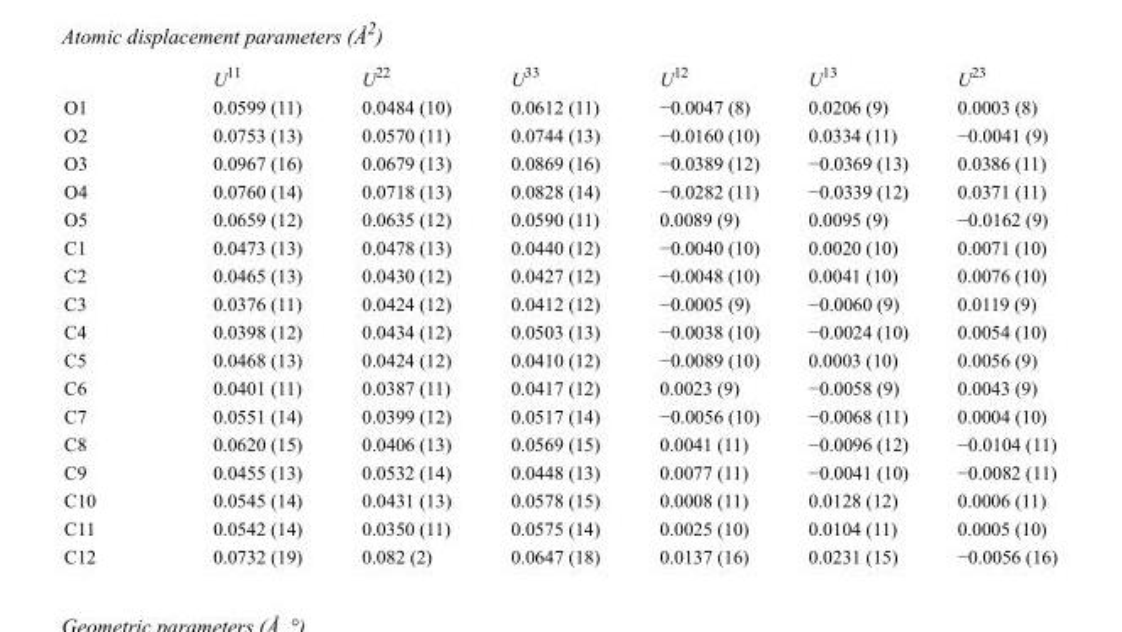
<table><thead><tr><td></td><td>U<sup>11</sup></td><td>U<sup>22</sup></td><td>U<sup>33</sup></td><td>U<sup>12</sup></td><td>U<sup>13</sup></td><td>U<sup>23</sup></td></tr></thead><tbody><tr><td>O1</td><td>0.0599 (11)</td><td>0.0484 (10)</td><td>0.0612 (11)</td><td>−0.0047 (8)</td><td>0.0206 (9)</td><td>0.0003 (8)</td></tr><tr><td>O2</td><td>0.0753 (13)</td><td>0.0570 (11)</td><td>0.0744 (13)</td><td>−0.0160 (10)</td><td>0.0334 (11)</td><td>−0.0041 (9)</td></tr><tr><td>O3</td><td>0.0967 (16)</td><td>0.0679 (13)</td><td>0.0869 (16)</td><td>−0.0389 (12)</td><td>−0.0369 (13)</td><td>0.0386 (11)</td></tr><tr><td>O4</td><td>0.0760 (14)</td><td>0.0718 (13)</td><td>0.0828 (14)</td><td>−0.0282 (11)</td><td>−0.0339 (12)</td><td>0.0371 (11)</td></tr><tr><td>O5</td><td>0.0659 (12)</td><td>0.0635 (12)</td><td>0.0590 (11)</td><td>0.0089 (9)</td><td>0.0095 (9)</td><td>−0.0162 (9)</td></tr><tr><td>C1</td><td>0.0473 (13)</td><td>0.0478 (13)</td><td>0.0440 (12)</td><td>−0.0040 (10)</td><td>0.0020 (10)</td><td>0.0071 (10)</td></tr><tr><td>C2</td><td>0.0465 (13)</td><td>0.0430 (12)</td><td>0.0427 (12)</td><td>−0.0048 (10)</td><td>0.0041 (10)</td><td>0.0076 (10)</td></tr><tr><td>C3</td><td>0.0376 (11)</td><td>0.0424 (12)</td><td>0.0412 (12)</td><td>−0.0005 (9)</td><td>−0.0060 (9)</td><td>0.0119 (9)</td></tr><tr><td>C4</td><td>0.0398 (12)</td><td>0.0434 (12)</td><td>0.0503 (13)</td><td>−0.0038 (10)</td><td>−0.0024 (10)</td><td>0.0054 (10)</td></tr><tr><td>C5</td><td>0.0468 (13)</td><td>0.0424 (12)</td><td>0.0410 (12)</td><td>−0.0089 (10)</td><td>0.0003 (10)</td><td>0.0056 (9)</td></tr><tr><td>C6</td><td>0.0401 (11)</td><td>0.0387 (11)</td><td>0.0417 (12)</td><td>0.0023 (9)</td><td>−0.0058 (9)</td><td>0.0043 (9)</td></tr><tr><td>C7</td><td>0.0551 (14)</td><td>0.0399 (12)</td><td>0.0517 (14)</td><td>−0.0056 (10)</td><td>−0.0068 (11)</td><td>0.0004 (10)</td></tr><tr><td>C8</td><td>0.0620 (15)</td><td>0.0406 (13)</td><td>0.0569 (15)</td><td>0.0041 (11)</td><td>−0.0096 (12)</td><td>−0.0104 (11)</td></tr><tr><td>C9</td><td>0.0455 (13)</td><td>0.0532 (14)</td><td>0.0448 (13)</td><td>0.0077 (11)</td><td>−0.0041 (10)</td><td>−0.0082 (11)</td></tr><tr><td>C10</td><td>0.0545 (14)</td><td>0.0431 (13)</td><td>0.0578 (15)</td><td>0.0008 (11)</td><td>0.0128 (12)</td><td>0.0006 (11)</td></tr><tr><td>C11</td><td>0.0542 (14)</td><td>0.0350 (11)</td><td>0.0575 (14)</td><td>0.0025 (10)</td><td>0.0104 (11)</td><td>0.0005 (10)</td></tr><tr><td>C12</td><td>0.0732 (19)</td><td>0.082 (2)</td><td>0.0647 (18)</td><td>0.0137 (16)</td><td>0.0231 (15)</td><td>−0.0056 (16)</td></tr></tbody></table>